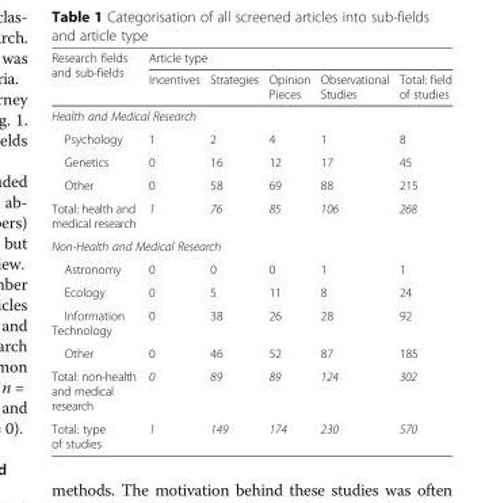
<table><thead><tr><td rowspan="2">Research fields and sub-fields</td><td colspan="5">Article type</td></tr><tr><td>Incentives</td><td>Strategies</td><td>Opinion Pieces</td><td>Observational Studies</td><td>Total: field of studies</td></tr></thead><tbody><tr><td colspan="6">Health and Medical Research</td></tr><tr><td>Psychology</td><td>1</td><td>2</td><td>4</td><td>1</td><td>8</td></tr><tr><td>Genetics</td><td>0</td><td>16</td><td>12</td><td>17</td><td>45</td></tr><tr><td>Other</td><td>0</td><td>58</td><td>69</td><td>88</td><td>215</td></tr><tr><td>Total: health and medical research</td><td>1</td><td>76</td><td>85</td><td>106</td><td>268</td></tr><tr><td colspan="6">Non-Health and Medical Research</td></tr><tr><td>Astronomy</td><td>0</td><td>0</td><td>0</td><td>1</td><td>1</td></tr><tr><td>Ecology</td><td>0</td><td>5</td><td>11</td><td>8</td><td>24</td></tr><tr><td>Information Technology</td><td>0</td><td>38</td><td>26</td><td>28</td><td>92</td></tr><tr><td>Other</td><td>0</td><td>46</td><td>52</td><td>87</td><td>185</td></tr><tr><td>Total: non-health and medical research</td><td>0</td><td>89</td><td>89</td><td>124</td><td>302</td></tr><tr><td>Total: type of studies</td><td>1</td><td>149</td><td>174</td><td>230</td><td>570</td></tr></tbody></table>